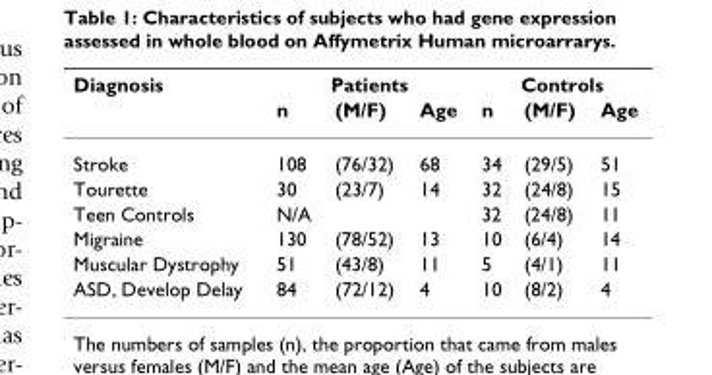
<table><thead><tr><td rowspan="2">Diagnosis</td><td colspan="3">Patients</td><td colspan="3">Controls</td></tr><tr><td>n</td><td>(M/F)</td><td>Age</td><td>n</td><td>(M/F)</td><td>Age</td></tr></thead><tbody><tr><td>Stroke</td><td>108</td><td>(76/32)</td><td>68</td><td>34</td><td>(29/5)</td><td>51</td></tr><tr><td>Tourette</td><td>30</td><td>(23/7)</td><td>14</td><td>32</td><td>(24/8)</td><td>15</td></tr><tr><td>Teen Controls</td><td>N/A</td><td></td><td></td><td>32</td><td>(24/8)</td><td>11</td></tr><tr><td>Migraine</td><td>130</td><td>(78/52)</td><td>13</td><td>10</td><td>(6/4)</td><td>14</td></tr><tr><td>Muscular Dystrophy</td><td>51</td><td>(43/8)</td><td>11</td><td>5</td><td>(4/1)</td><td>11</td></tr><tr><td>ASD, Develop Delay</td><td>84</td><td>(72/12)</td><td>4</td><td>10</td><td>(8/2)</td><td>4</td></tr></tbody></table>